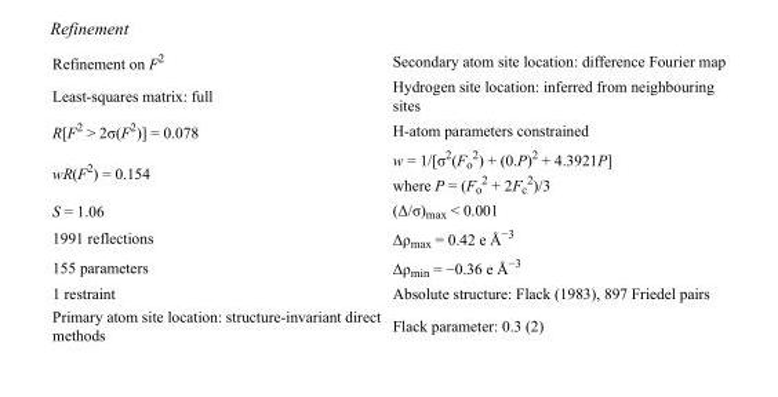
<table><tbody><tr><td>Refinement on F<sup>2</sup></td><td>Secondary atom site location: difference Fourier map</td></tr><tr><td>Least-squares matrix: full</td><td>Hydrogen site location: inferred from neighbouring sites</td></tr><tr><td>R[F<sup>2</sup> &gt; 2σ(F<sup>2</sup>)] = 0.078</td><td>H-atom parameters constrained</td></tr><tr><td>wR(F<sup>2</sup>) = 0.154</td><td>w = 1/[σ<sup>2</sup>(F<sub>o</sub> <sup>2</sup>) + (0.P)<sup>2</sup> + 4.3921P] where P = (F<sub>o</sub> <sup>2</sup> + 2F<sub>c</sub> <sup>2</sup>)/3</td></tr><tr><td>S = 1.06</td><td>(Δ/σ)<sub>max</sub> &lt; 0.001</td></tr><tr><td>1991 reflections</td><td>Δρ<sub>max</sub> = 0.42 e Å<sup>−3</sup></td></tr><tr><td>155 parameters</td><td>Δρ<sub>min</sub> = −0.36 e Å<sup>−3</sup></td></tr><tr><td>1 restraint</td><td>Absolute structure: Flack (1983), 897 Friedel pairs</td></tr><tr><td>Primary atom site location: structure-invariant direct methods</td><td>Flack parameter: 0.3 (2)</td></tr></tbody></table>